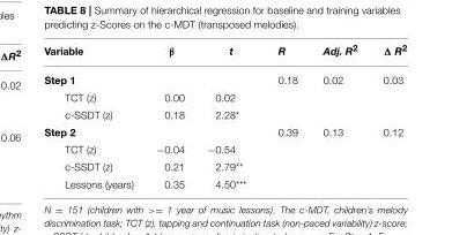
<table><thead><tr><td>Variable</td><td>β</td><td>t</td><td>R</td><td>Adj. R<sup>2</sup></td><td>Δ R<sup>2</sup></td></tr></thead><tbody><tr><td>Step 1</td><td></td><td></td><td>0.18</td><td>0.02</td><td>0.03</td></tr><tr><td>TCT (z)</td><td>0.00</td><td>0.02</td><td></td><td></td><td></td></tr><tr><td>c-SSDT (z)</td><td>0.18</td><td>2.28*</td><td></td><td></td><td></td></tr><tr><td>Step 2</td><td></td><td></td><td>0.39</td><td>0.13</td><td>0.12</td></tr><tr><td>TCT (z)</td><td>−0.04</td><td>−0.54</td><td></td><td></td><td></td></tr><tr><td>c-SSDT (z)</td><td>0.21</td><td>2.79**</td><td></td><td></td><td></td></tr><tr><td>Lessons (years)</td><td>0.35</td><td>4.50***</td><td></td><td></td><td></td></tr></tbody></table>